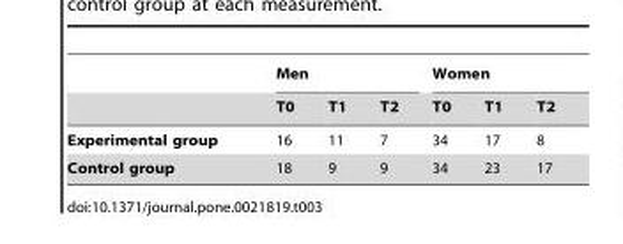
<table><thead><tr><td rowspan="2"></td><td colspan="3">Men</td><td colspan="3">Women</td></tr><tr><td>T0</td><td>T1</td><td>T2</td><td>T0</td><td>T1</td><td>T2</td></tr></thead><tbody><tr><td>Experimental group</td><td>16</td><td>11</td><td>7</td><td>34</td><td>17</td><td>8</td></tr><tr><td>Control group</td><td>18</td><td>9</td><td>9</td><td>34</td><td>23</td><td>17</td></tr></tbody></table>